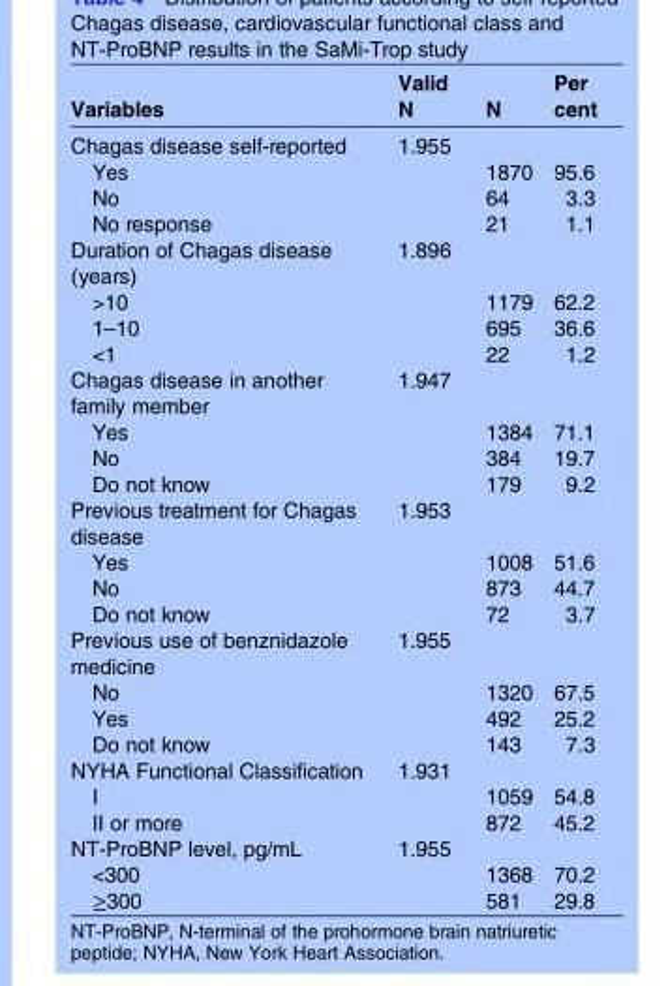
<table><thead><tr><td>Variables</td><td>Valid N</td><td>N</td><td>Per cent</td></tr></thead><tbody><tr><td>Chagas disease self-reported</td><td>1.955</td><td></td><td></td></tr><tr><td>Yes</td><td></td><td>1870</td><td>95.6</td></tr><tr><td>No</td><td></td><td>64</td><td>3.3</td></tr><tr><td>No response</td><td></td><td>21</td><td>1.1</td></tr><tr><td>Duration of Chagas disease (years)</td><td>1.896</td><td></td><td></td></tr><tr><td>&gt;10</td><td></td><td>1179</td><td>62.2</td></tr><tr><td>1–10</td><td></td><td>695</td><td>36.6</td></tr><tr><td>&lt;1</td><td></td><td>22</td><td>1.2</td></tr><tr><td>Chagas disease in another family member</td><td>1.947</td><td></td><td></td></tr><tr><td>Yes</td><td></td><td>1384</td><td>71.1</td></tr><tr><td>No</td><td></td><td>384</td><td>19.7</td></tr><tr><td>Do not know</td><td></td><td>179</td><td>9.2</td></tr><tr><td>Previous treatment for Chagas disease</td><td>1.953</td><td></td><td></td></tr><tr><td>Yes</td><td></td><td>1008</td><td>51.6</td></tr><tr><td>No</td><td></td><td>873</td><td>44.7</td></tr><tr><td>Do not know</td><td></td><td>72</td><td>3.7</td></tr><tr><td>Previous use of benznidazole medicine</td><td>1.955</td><td></td><td></td></tr><tr><td>No</td><td></td><td>1320</td><td>67.5</td></tr><tr><td>Yes</td><td></td><td>492</td><td>25.2</td></tr><tr><td>Do not know</td><td></td><td>143</td><td>7.3</td></tr><tr><td>NYHA Functional Classification</td><td>1.931</td><td></td><td></td></tr><tr><td>I</td><td></td><td>1059</td><td>54.8</td></tr><tr><td>II or more</td><td></td><td>872</td><td>45.2</td></tr><tr><td>NT-ProBNP level, pg/mL</td><td>1.955</td><td></td><td></td></tr><tr><td>&lt;300</td><td></td><td>1368</td><td>70.2</td></tr><tr><td>≥300</td><td></td><td>581</td><td>29.8</td></tr></tbody></table>